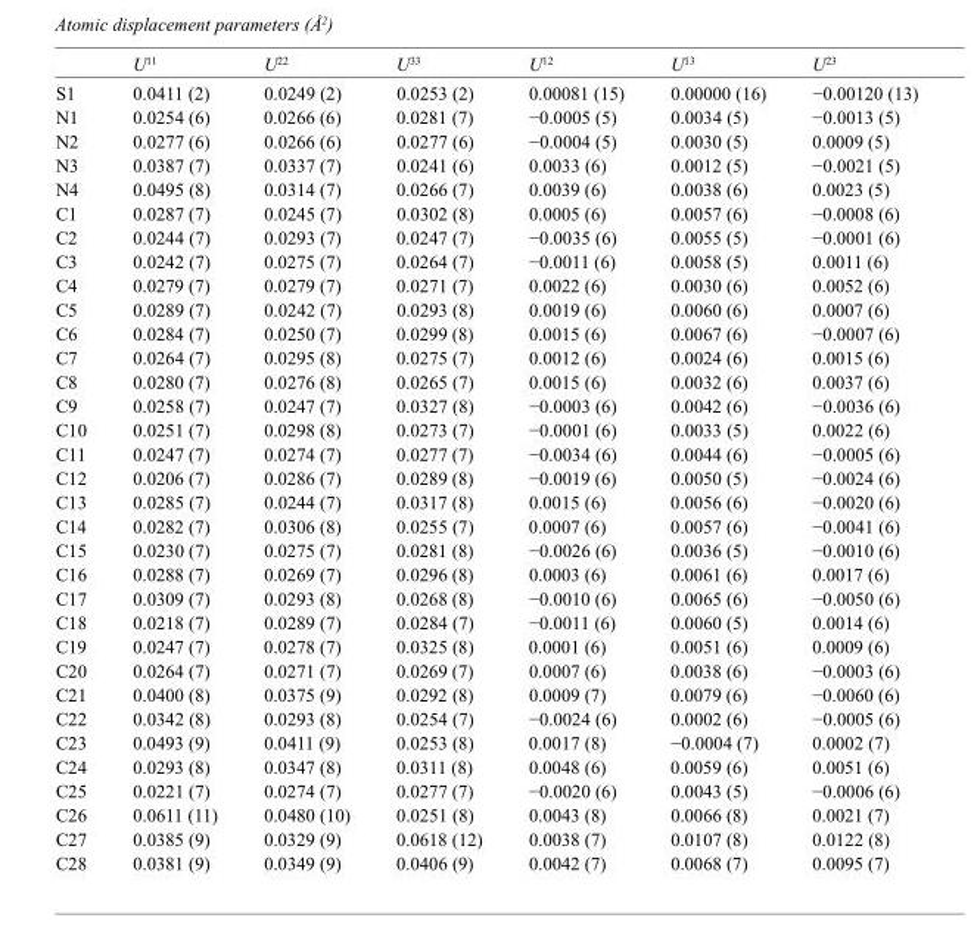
<table><thead><tr><td></td><td>U<sup>11</sup></td><td>U<sup>22</sup></td><td>U<sup>33</sup></td><td>U<sup>12</sup></td><td>U<sup>13</sup></td><td>U<sup>23</sup></td></tr></thead><tbody><tr><td>S1</td><td>0.0411 (2)</td><td>0.0249 (2)</td><td>0.0253 (2)</td><td>0.00081 (15)</td><td>0.00000 (16)</td><td>−0.00120 (13)</td></tr><tr><td>N1</td><td>0.0254 (6)</td><td>0.0266 (6)</td><td>0.0281 (7)</td><td>−0.0005 (5)</td><td>0.0034 (5)</td><td>−0.0013 (5)</td></tr><tr><td>N2</td><td>0.0277 (6)</td><td>0.0266 (6)</td><td>0.0277 (6)</td><td>−0.0004 (5)</td><td>0.0030 (5)</td><td>0.0009 (5)</td></tr><tr><td>N3</td><td>0.0387 (7)</td><td>0.0337 (7)</td><td>0.0241 (6)</td><td>0.0033 (6)</td><td>0.0012 (5)</td><td>−0.0021 (5)</td></tr><tr><td>N4</td><td>0.0495 (8)</td><td>0.0314 (7)</td><td>0.0266 (7)</td><td>0.0039 (6)</td><td>0.0038 (6)</td><td>0.0023 (5)</td></tr><tr><td>C1</td><td>0.0287 (7)</td><td>0.0245 (7)</td><td>0.0302 (8)</td><td>0.0005 (6)</td><td>0.0057 (6)</td><td>−0.0008 (6)</td></tr><tr><td>C2</td><td>0.0244 (7)</td><td>0.0293 (7)</td><td>0.0247 (7)</td><td>−0.0035 (6)</td><td>0.0055 (5)</td><td>−0.0001 (6)</td></tr><tr><td>C3</td><td>0.0242 (7)</td><td>0.0275 (7)</td><td>0.0264 (7)</td><td>−0.0011 (6)</td><td>0.0058 (5)</td><td>0.0011 (6)</td></tr><tr><td>C4</td><td>0.0279 (7)</td><td>0.0279 (7)</td><td>0.0271 (7)</td><td>0.0022 (6)</td><td>0.0030 (6)</td><td>0.0052 (6)</td></tr><tr><td>C5</td><td>0.0289 (7)</td><td>0.0242 (7)</td><td>0.0293 (8)</td><td>0.0019 (6)</td><td>0.0060 (6)</td><td>0.0007 (6)</td></tr><tr><td>C6</td><td>0.0284 (7)</td><td>0.0250 (7)</td><td>0.0299 (8)</td><td>0.0015 (6)</td><td>0.0067 (6)</td><td>−0.0007 (6)</td></tr><tr><td>C7</td><td>0.0264 (7)</td><td>0.0295 (8)</td><td>0.0275 (7)</td><td>0.0012 (6)</td><td>0.0024 (6)</td><td>0.0015 (6)</td></tr><tr><td>C8</td><td>0.0280 (7)</td><td>0.0276 (8)</td><td>0.0265 (7)</td><td>0.0015 (6)</td><td>0.0032 (6)</td><td>0.0037 (6)</td></tr><tr><td>C9</td><td>0.0258 (7)</td><td>0.0247 (7)</td><td>0.0327 (8)</td><td>−0.0003 (6)</td><td>0.0042 (6)</td><td>−0.0036 (6)</td></tr><tr><td>C10</td><td>0.0251 (7)</td><td>0.0298 (8)</td><td>0.0273 (7)</td><td>−0.0001 (6)</td><td>0.0033 (5)</td><td>0.0022 (6)</td></tr><tr><td>C11</td><td>0.0247 (7)</td><td>0.0274 (7)</td><td>0.0277 (7)</td><td>−0.0034 (6)</td><td>0.0044 (6)</td><td>−0.0005 (6)</td></tr><tr><td>C12</td><td>0.0206 (7)</td><td>0.0286 (7)</td><td>0.0289 (8)</td><td>−0.0019 (6)</td><td>0.0050 (5)</td><td>−0.0024 (6)</td></tr><tr><td>C13</td><td>0.0285 (7)</td><td>0.0244 (7)</td><td>0.0317 (8)</td><td>0.0015 (6)</td><td>0.0056 (6)</td><td>−0.0020 (6)</td></tr><tr><td>C14</td><td>0.0282 (7)</td><td>0.0306 (8)</td><td>0.0255 (7)</td><td>0.0007 (6)</td><td>0.0057 (6)</td><td>−0.0041 (6)</td></tr><tr><td>C15</td><td>0.0230 (7)</td><td>0.0275 (7)</td><td>0.0281 (8)</td><td>−0.0026 (6)</td><td>0.0036 (5)</td><td>−0.0010 (6)</td></tr><tr><td>C16</td><td>0.0288 (7)</td><td>0.0269 (7)</td><td>0.0296 (8)</td><td>0.0003 (6)</td><td>0.0061 (6)</td><td>0.0017 (6)</td></tr><tr><td>C17</td><td>0.0309 (7)</td><td>0.0293 (8)</td><td>0.0268 (8)</td><td>−0.0010 (6)</td><td>0.0065 (6)</td><td>−0.0050 (6)</td></tr><tr><td>C18</td><td>0.0218 (7)</td><td>0.0289 (7)</td><td>0.0284 (7)</td><td>−0.0011 (6)</td><td>0.0060 (5)</td><td>0.0014 (6)</td></tr><tr><td>C19</td><td>0.0247 (7)</td><td>0.0278 (7)</td><td>0.0325 (8)</td><td>0.0001 (6)</td><td>0.0051 (6)</td><td>0.0009 (6)</td></tr><tr><td>C20</td><td>0.0264 (7)</td><td>0.0271 (7)</td><td>0.0269 (7)</td><td>0.0007 (6)</td><td>0.0038 (6)</td><td>−0.0003 (6)</td></tr><tr><td>C21</td><td>0.0400 (8)</td><td>0.0375 (9)</td><td>0.0292 (8)</td><td>0.0009 (7)</td><td>0.0079 (6)</td><td>−0.0060 (6)</td></tr><tr><td>C22</td><td>0.0342 (8)</td><td>0.0293 (8)</td><td>0.0254 (7)</td><td>−0.0024 (6)</td><td>0.0002 (6)</td><td>−0.0005 (6)</td></tr><tr><td>C23</td><td>0.0493 (9)</td><td>0.0411 (9)</td><td>0.0253 (8)</td><td>0.0017 (8)</td><td>−0.0004 (7)</td><td>0.0002 (7)</td></tr><tr><td>C24</td><td>0.0293 (8)</td><td>0.0347 (8)</td><td>0.0311 (8)</td><td>0.0048 (6)</td><td>0.0059 (6)</td><td>0.0051 (6)</td></tr><tr><td>C25</td><td>0.0221 (7)</td><td>0.0274 (7)</td><td>0.0277 (7)</td><td>−0.0020 (6)</td><td>0.0043 (5)</td><td>−0.0006 (6)</td></tr><tr><td>C26</td><td>0.0611 (11)</td><td>0.0480 (10)</td><td>0.0251 (8)</td><td>0.0043 (8)</td><td>0.0066 (8)</td><td>0.0021 (7)</td></tr><tr><td>C27</td><td>0.0385 (9)</td><td>0.0329 (9)</td><td>0.0618 (12)</td><td>0.0038 (7)</td><td>0.0107 (8)</td><td>0.0122 (8)</td></tr><tr><td>C28</td><td>0.0381 (9)</td><td>0.0349 (9)</td><td>0.0406 (9)</td><td>0.0042 (7)</td><td>0.0068 (7)</td><td>0.0095 (7)</td></tr></tbody></table>